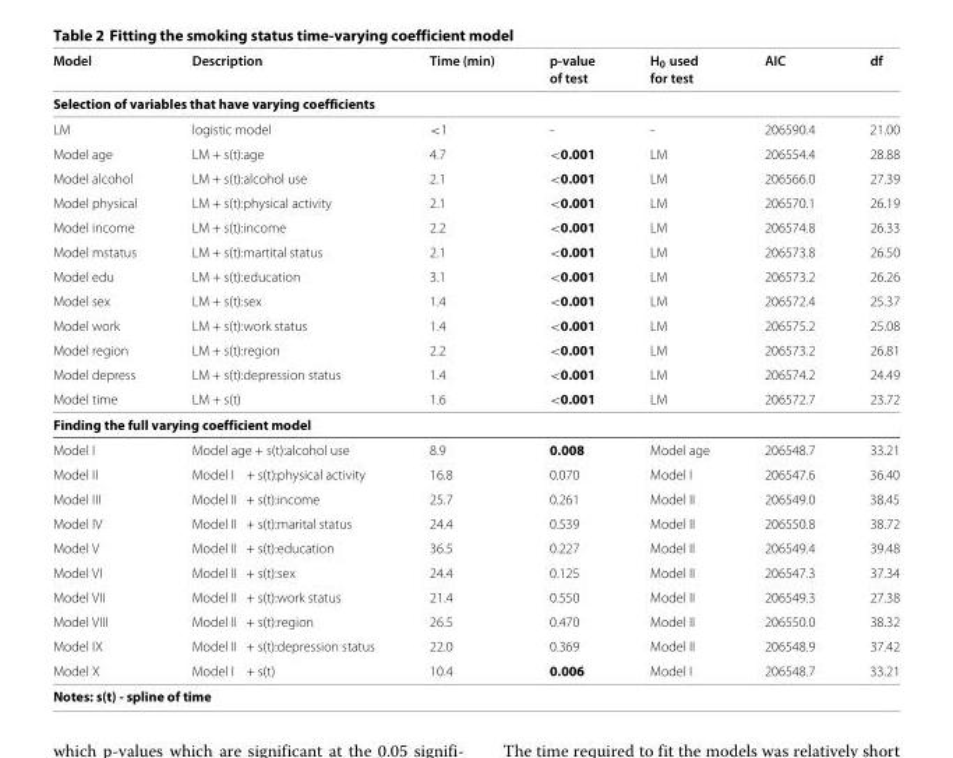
<table><thead><tr><td rowspan="2">Model</td><td rowspan="2">Description</td><td rowspan="2">Time (min)</td><td rowspan="2">p-value of test</td><td rowspan="2">H<sub>0</sub> used for test</td><td rowspan="2">AIC</td><td rowspan="2">df</td></tr><tr></tr></thead><tbody><tr><td colspan="7">Selection of variables that have varying coefficients</td></tr><tr><td>LM</td><td>logistic model</td><td>&lt;1</td><td>-</td><td>-</td><td>206590.4</td><td>21.00</td></tr><tr><td>Model age</td><td>LM + s(t):age</td><td>4.7</td><td>&lt;0.001</td><td>LM</td><td>206554.4</td><td>28.88</td></tr><tr><td>Model alcohol</td><td>LM + s(t):alcohol use</td><td>2.1</td><td>&lt;0.001</td><td>LM</td><td>206566.0</td><td>27.39</td></tr><tr><td>Model physical</td><td>LM + s(t):physical activity</td><td>2.1</td><td>&lt;0.001</td><td>LM</td><td>206570.1</td><td>26.19</td></tr><tr><td>Model income</td><td>LM + s(t):income</td><td>2.2</td><td>&lt;0.001</td><td>LM</td><td>206574.8</td><td>26.33</td></tr><tr><td>Model mstatus</td><td>LM + s(t):martital status</td><td>2.1</td><td>&lt;0.001</td><td>LM</td><td>206573.8</td><td>26.50</td></tr><tr><td>Model edu</td><td>LM + s(t):education</td><td>3.1</td><td>&lt;0.001</td><td>LM</td><td>206573.2</td><td>26.26</td></tr><tr><td>Model sex</td><td>LM + s(t):sex</td><td>1.4</td><td>&lt;0.001</td><td>LM</td><td>206572.4</td><td>25.37</td></tr><tr><td>Model work</td><td>LM + s(t):work status</td><td>1.4</td><td>&lt;0.001</td><td>LM</td><td>206575.2</td><td>25.08</td></tr><tr><td>Model region</td><td>LM + s(t):region</td><td>2.2</td><td>&lt;0.001</td><td>LM</td><td>206573.2</td><td>26.81</td></tr><tr><td>Model depress</td><td>LM + s(t):depression status</td><td>1.4</td><td>&lt;0.001</td><td>LM</td><td>206574.2</td><td>24.49</td></tr><tr><td>Model time</td><td>LM + s(t)</td><td>1.6</td><td>&lt;0.001</td><td>LM</td><td>206572.7</td><td>23.72</td></tr><tr><td colspan="7">Finding the full varying coefficient model</td></tr><tr><td>Model I</td><td>Model age + s(t):alcohol use</td><td>8.9</td><td>0.008</td><td>Model age</td><td>206548.7</td><td>33.21</td></tr><tr><td>Model II</td><td>Model I + s(t):physical activity</td><td>16.8</td><td>0.070</td><td>Model I</td><td>206547.6</td><td>36.40</td></tr><tr><td>Model III</td><td>Model II + s(t):income</td><td>25.7</td><td>0.261</td><td>Model II</td><td>206549.0</td><td>38.45</td></tr><tr><td>Model IV</td><td>Model II + s(t):marital status</td><td>24.4</td><td>0.539</td><td>Model II</td><td>206550.8</td><td>38.72</td></tr><tr><td>Model V</td><td>Model II + s(t):education</td><td>36.5</td><td>0.227</td><td>Model II</td><td>206549.4</td><td>39.48</td></tr><tr><td>Model VI</td><td>Model II + s(t):sex</td><td>24.4</td><td>0.125</td><td>Model II</td><td>206547.3</td><td>37.34</td></tr><tr><td>Model VII</td><td>Model II + s(t):work status</td><td>21.4</td><td>0.550</td><td>Model II</td><td>206549.3</td><td>27.38</td></tr><tr><td>Model VIII</td><td>Model II + s(t):region</td><td>26.5</td><td>0.470</td><td>Model II</td><td>206550.0</td><td>38.32</td></tr><tr><td>Model IX</td><td>Model II + s(t):depression status</td><td>22.0</td><td>0.369</td><td>Model II</td><td>206548.9</td><td>37.42</td></tr><tr><td>Model X</td><td>Model I + s(t)</td><td>10.4</td><td>0.006</td><td>Model I</td><td>206548.7</td><td>33.21</td></tr><tr><td colspan="7">Notes: s(t) - spline of time</td></tr></tbody></table>